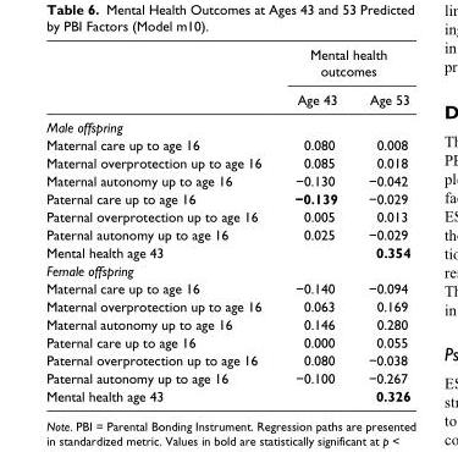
<table><thead><tr><td rowspan="2"></td><td colspan="2">Mental health outcomes</td></tr><tr><td>Age 43</td><td>Age 53</td></tr></thead><tbody><tr><td colspan="3">Male offspring</td></tr><tr><td>Maternal care up to age 16</td><td>0.080</td><td>0.008</td></tr><tr><td>Maternal overprotection up to age 16</td><td>0.085</td><td>0.018</td></tr><tr><td>Maternal autonomy up to age 16</td><td>−0.130</td><td>−0.042</td></tr><tr><td>Paternal care up to age 16</td><td>−0.139</td><td>−0.029</td></tr><tr><td>Paternal overprotection up to age 16</td><td>0.005</td><td>0.013</td></tr><tr><td>Paternal autonomy up to age 16</td><td>0.025</td><td>−0.029</td></tr><tr><td>Mental health age 43</td><td></td><td>0.354</td></tr><tr><td colspan="3">Female offspring</td></tr><tr><td>Maternal care up to age 16</td><td>−0.140</td><td>−0.094</td></tr><tr><td>Maternal overprotection up to age 16</td><td>0.063</td><td>0.169</td></tr><tr><td>Maternal autonomy up to age 16</td><td>0.146</td><td>0.280</td></tr><tr><td>Paternal care up to age 16</td><td>0.000</td><td>0.055</td></tr><tr><td>Paternal overprotection up to age 16</td><td>0.080</td><td>−0.038</td></tr><tr><td>Paternal autonomy up to age 16</td><td>−0.100</td><td>−0.267</td></tr><tr><td>Mental health age 43</td><td></td><td>0.326</td></tr></tbody></table>